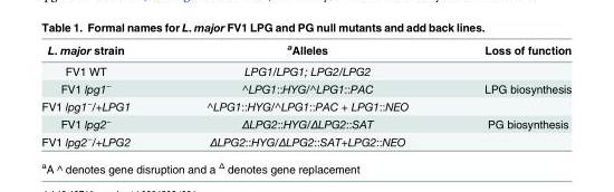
<table><thead><tr><td>L. major strain</td><td><sup>a</sup>Alleles</td><td>Loss of function</td></tr></thead><tbody><tr><td>FV1 WT</td><td>LPG1/LPG1; LPG2/LPG2</td><td></td></tr><tr><td>FV1 lpg1<sup>−</sup></td><td>^LPG1::HYG/^LPG1::PAC</td><td>LPG biosynthesis</td></tr><tr><td>FV1 lpg1<sup>−</sup>/+LPG1</td><td>^LPG1::HYG/^LPG1::PAC + LPG1::NEO</td><td></td></tr><tr><td>FV1 lpg2<sup>−</sup></td><td>ΔLPG2::HYG/ΔLPG2::SAT</td><td>PG biosynthesis</td></tr><tr><td>FV1 lpg2<sup>−</sup>/+LPG2</td><td>ΔLPG2::HYG/ΔLPG2::SAT+LPG2::NEO</td><td></td></tr></tbody></table>